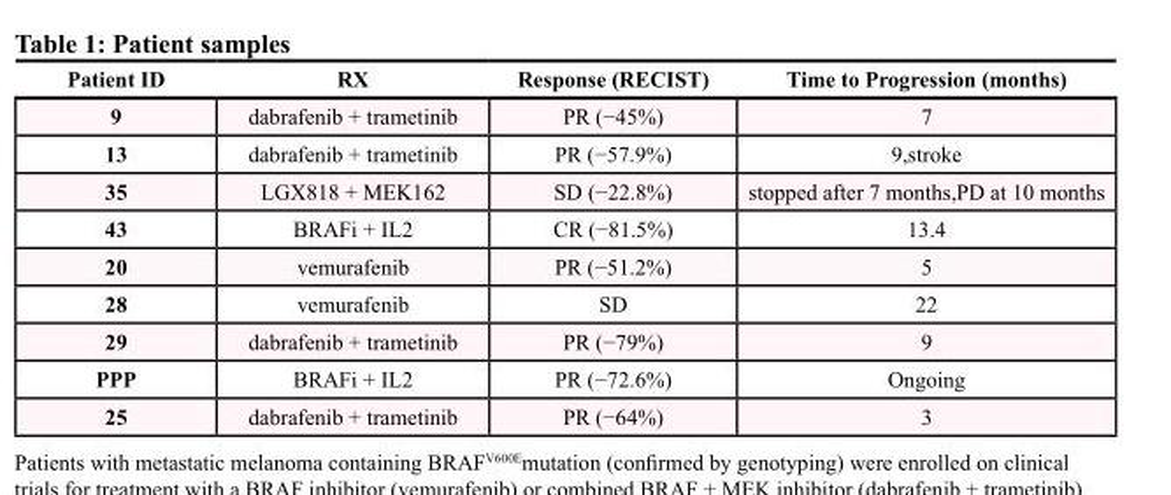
<table><thead><tr><td>Patient ID</td><td>RX</td><td>Response (RECIST)</td><td>Time to Progression (months)</td></tr></thead><tbody><tr><td>9</td><td>dabrafenib + trametinib</td><td>PR (−45%)</td><td>7</td></tr><tr><td>13</td><td>dabrafenib + trametinib</td><td>PR (−57.9%)</td><td>9,stroke</td></tr><tr><td>35</td><td>LGX818 + MEK162</td><td>SD (−22.8%)</td><td>stopped after 7 months,PD at 10 months</td></tr><tr><td>43</td><td>BRAFi + IL2</td><td>CR (−81.5%)</td><td>13.4</td></tr><tr><td>20</td><td>vemurafenib</td><td>PR (−51.2%)</td><td>5</td></tr><tr><td>28</td><td>vemurafenib</td><td>SD</td><td>22</td></tr><tr><td>29</td><td>dabrafenib + trametinib</td><td>PR (−79%)</td><td>9</td></tr><tr><td>PPP</td><td>BRAFi + IL2</td><td>PR (−72.6%)</td><td>Ongoing</td></tr><tr><td>25</td><td>dabrafenib + trametinib</td><td>PR (−64%)</td><td>3</td></tr></tbody></table>